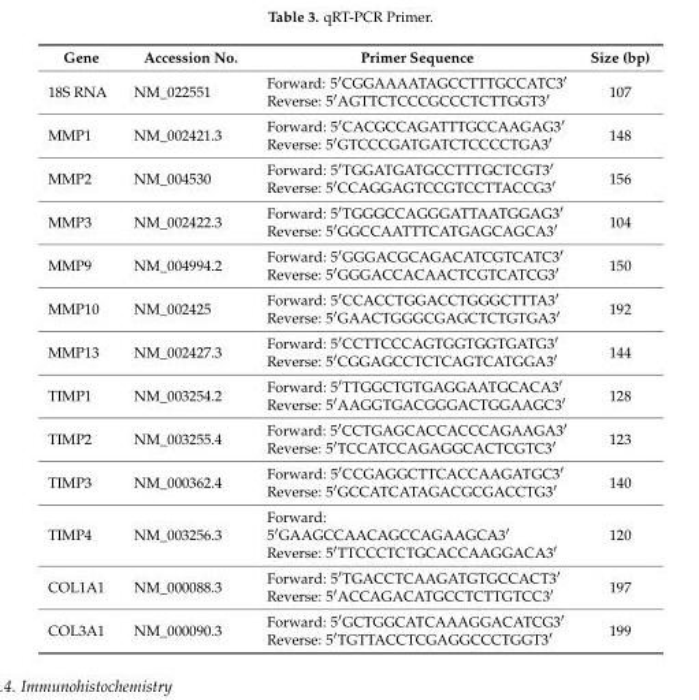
<table><thead><tr><td>Gene</td><td>Accession No.</td><td>Primer Sequence</td><td>Size (bp)</td></tr></thead><tbody><tr><td>18S RNA</td><td>NM_022551</td><td>Forward: 5′CGGAAAATAGCCTTTGCCATC3′ Reverse: 5′AGTTCTCCCGCCCTCTTGGT3′</td><td>107</td></tr><tr><td>MMP1</td><td>NM_002421.3</td><td>Forward: 5′CACGCCAGATTTGCCAAGAG3′ Reverse: 5′GTCCCGATGATCTCCCCTGA3′</td><td>148</td></tr><tr><td>MMP2</td><td>NM_004530</td><td>Forward: 5′TGGATGATGCCTTTGCTCGT3′ Reverse: 5′CCAGGAGTCCGTCCTTACCG3′</td><td>156</td></tr><tr><td>MMP3</td><td>NM_002422.3</td><td>Forward: 5′TGGGCCAGGGATTAATGGAG3′ Reverse: 5′GGCCAATTTCATGAGCAGCA3′</td><td>104</td></tr><tr><td>MMP9</td><td>NM_004994.2</td><td>Forward: 5′GGGACGCAGACATCGTCATC3′ Reverse: 5′GGGACCACAACTCGTCATCG3′</td><td>150</td></tr><tr><td>MMP10</td><td>NM_002425</td><td>Forward: 5′CCACCTGGACCTGGGCTTTA3′ Reverse: 5′GAACTGGGCGAGCTCTGTGA3′</td><td>192</td></tr><tr><td>MMP13</td><td>NM_002427.3</td><td>Forward: 5′CCTTCCCAGTGGTGGTGATG3′ Reverse: 5′CGGAGCCTCTCAGTCATGGA3′</td><td>144</td></tr><tr><td>TIMP1</td><td>NM_003254.2</td><td>Forward: 5′TTGGCTGTGAGGAATGCACA3′ Reverse: 5′AAGGTGACGGGACTGGAAGC3′</td><td>128</td></tr><tr><td>TIMP2</td><td>NM_003255.4</td><td>Forward: 5′CCTGAGCACCACCCAGAAGA3′ Reverse: 5′TCCATCCAGAGGCACTCGTC3′</td><td>123</td></tr><tr><td>TIMP3</td><td>NM_000362.4</td><td>Forward: 5′CCGAGGCTTCACCAAGATGC3′ Reverse: 5′GCCATCATAGACGCGACCTG3′</td><td>140</td></tr><tr><td>TIMP4</td><td>NM_003256.3</td><td>Forward: 5′GAAGCCAACAGCCAGAAGCA3′ Reverse: 5′TTCCCTCTGCACCAAGGACA3′</td><td>120</td></tr><tr><td>COL1A1</td><td>NM_000088.3</td><td>Forward: 5′TGACCTCAAGATGTGCCACT3′ Reverse: 5′ACCAGACATGCCTCTTGTCC3′</td><td>197</td></tr><tr><td>COL3A1</td><td>NM_000090.3</td><td>Forward: 5′GCTGGCATCAAAGGACATCG3′ Reverse: 5′TGTTACCTCGAGGCCCTGGT3′</td><td>199</td></tr></tbody></table>